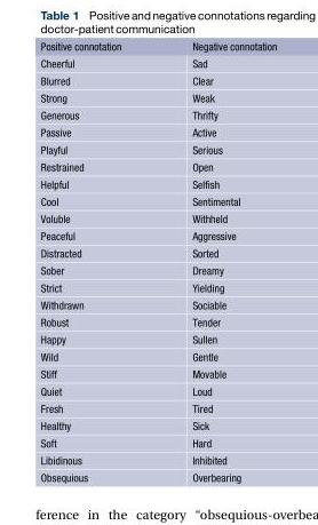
<table><thead><tr><td>Positive connotation</td><td>Negative connotation</td></tr></thead><tbody><tr><td>Cheerful</td><td>Sad</td></tr><tr><td>Blurred</td><td>Clear</td></tr><tr><td>Strong</td><td>Weak</td></tr><tr><td>Generous</td><td>Thrifty</td></tr><tr><td>Passive</td><td>Active</td></tr><tr><td>Playful</td><td>Serious</td></tr><tr><td>Restrained</td><td>Open</td></tr><tr><td>Helpful</td><td>Selfish</td></tr><tr><td>Cool</td><td>Sentimental</td></tr><tr><td>Voluble</td><td>Withheld</td></tr><tr><td>Peaceful</td><td>Aggressive</td></tr><tr><td>Distracted</td><td>Sorted</td></tr><tr><td>Sober</td><td>Dreamy</td></tr><tr><td>Strict</td><td>Yielding</td></tr><tr><td>Withdrawn</td><td>Sociable</td></tr><tr><td>Robust</td><td>Tender</td></tr><tr><td>Happy</td><td>Sullen</td></tr><tr><td>Wild</td><td>Gentle</td></tr><tr><td>Stiff</td><td>Movable</td></tr><tr><td>Quiet</td><td>Loud</td></tr><tr><td>Fresh</td><td>Tired</td></tr><tr><td>Healthy</td><td>Sick</td></tr><tr><td>Soft</td><td>Hard</td></tr><tr><td>Libidinous</td><td>Inhibited</td></tr><tr><td>Obsequious</td><td>Overbearing</td></tr></tbody></table>